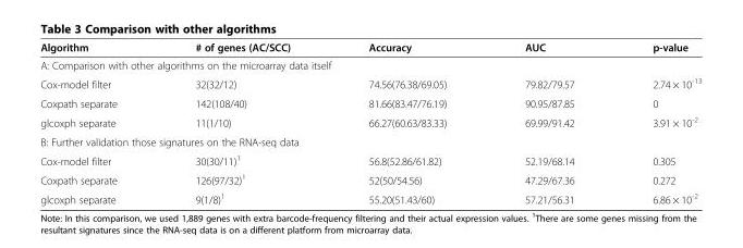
<table><thead><tr><td>Algorithm</td><td># of genes (AC/SCC)</td><td>Accuracy</td><td>AUC</td><td>p-value</td></tr></thead><tbody><tr><td colspan="5">A: Comparison with other algorithms on the microarray data itself</td></tr><tr><td>Cox-model filter</td><td>32(32/12)</td><td>74.56(76.38/69.05)</td><td>79.82/79.57</td><td>2.74 × 10<sup>-13</sup></td></tr><tr><td>Coxpath separate</td><td>142(108/40)</td><td>81.66(83.47/76.19)</td><td>90.95/87.85</td><td>0</td></tr><tr><td>glcoxph separate</td><td>11(1/10)</td><td>66.27(60.63/83.33)</td><td>69.99/91.42</td><td>3.91 × 10<sup>-2</sup></td></tr><tr><td colspan="5">B: Further validation those signatures on the RNA-seq data</td></tr><tr><td>Cox-model filter</td><td>30(30/11)<sup>1</sup></td><td>56.8(52.86/61.82)</td><td>52.19/68.14</td><td>0.305</td></tr><tr><td>Coxpath separate</td><td>126(97/32)<sup>1</sup></td><td>52(50/54.56)</td><td>47.29/67.36</td><td>0.272</td></tr><tr><td>glcoxph separate</td><td>9(1/8)<sup>1</sup></td><td>55.20(51.43/60)</td><td>57.21/56.31</td><td>6.86 × 10<sup>-2</sup></td></tr></tbody></table>